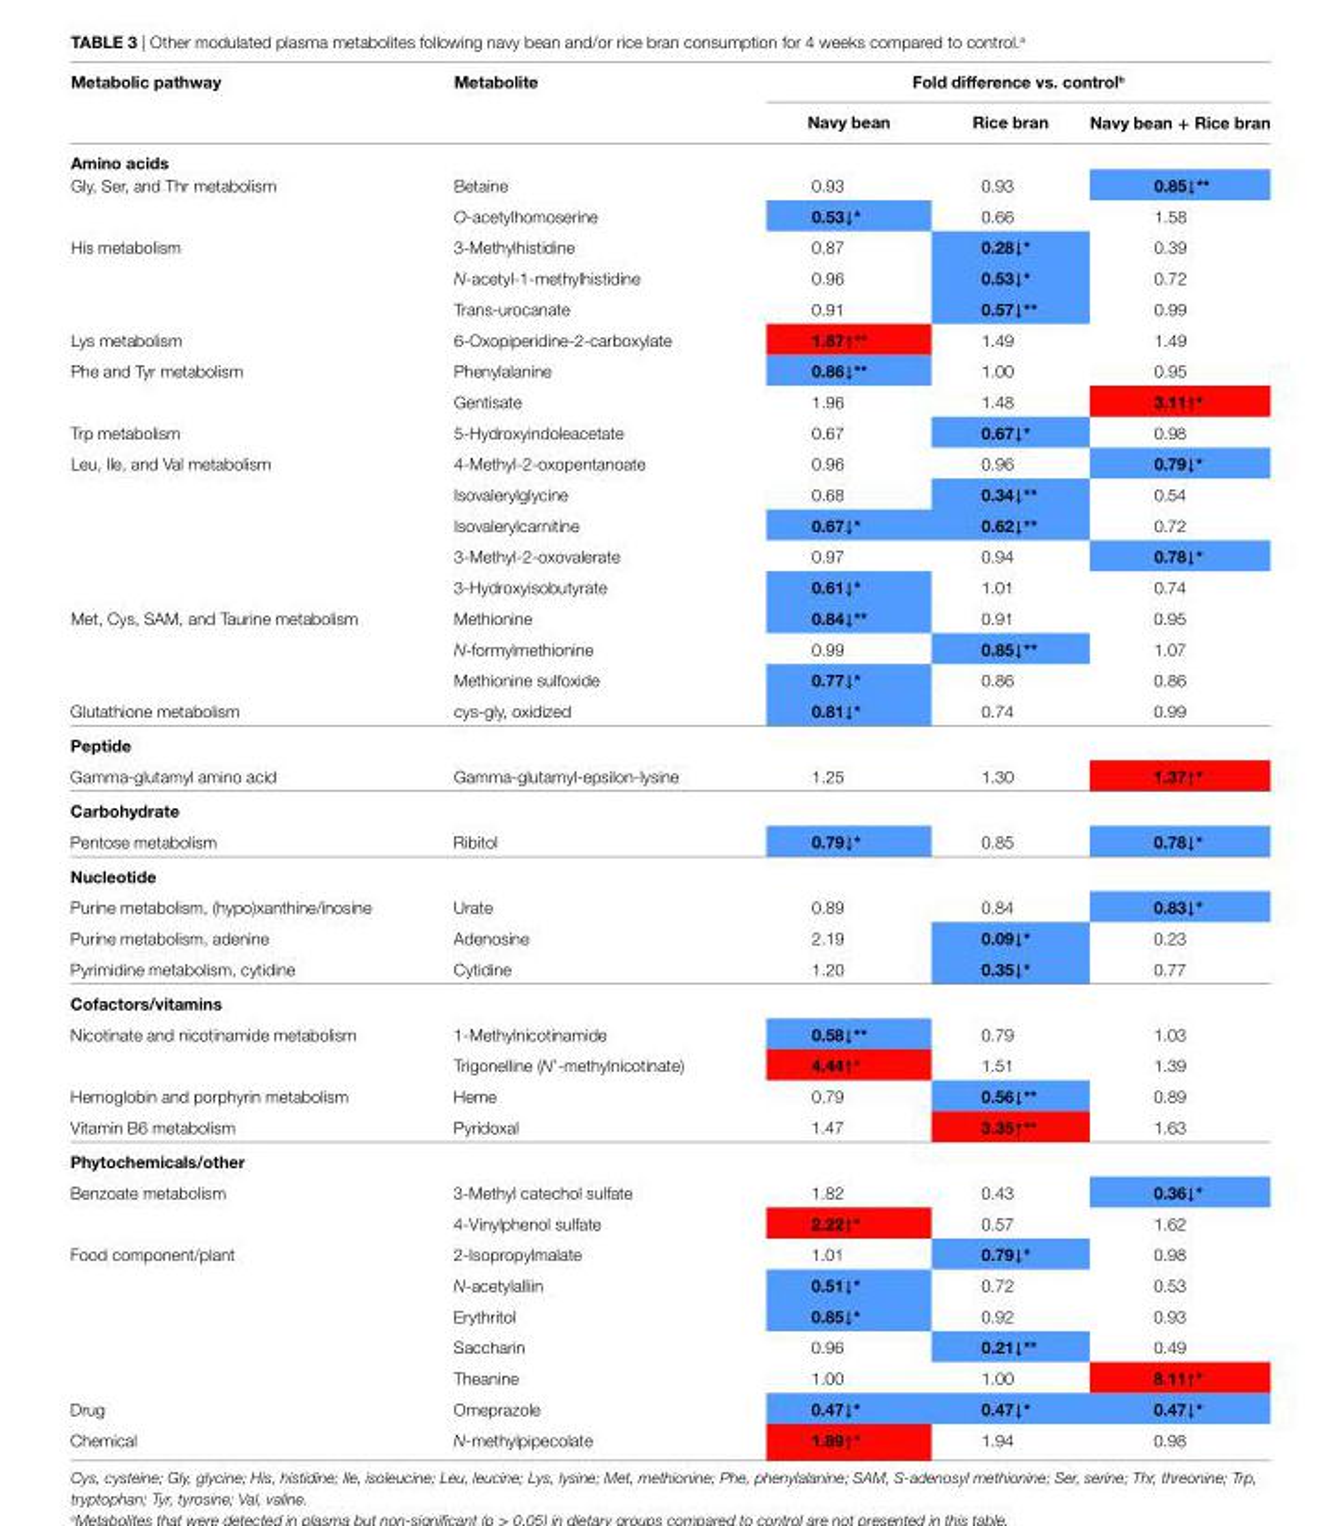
<table><thead><tr><td rowspan="2">Metabolic pathway</td><td rowspan="2">Metabolite</td><td colspan="3">Fold difference vs. control<sup>b</sup></td></tr><tr><td>navy bean</td><td>rice bran</td><td>navy bean + rice bran</td></tr></thead><tbody><tr><td colspan="5">amino acids</td></tr><tr><td rowspan="2">Gly, Ser, and Thr metabolism</td><td>Betaine</td><td>0.93</td><td>0.93</td><td>0.85↓**</td></tr><tr><td>O-acetylhomoserine</td><td>0.53↓*</td><td>0.66</td><td>1.58</td></tr><tr><td rowspan="3">His metabolism</td><td>3-Methylhistidine</td><td>0.87</td><td>0.28↓*</td><td>0.39</td></tr><tr><td>N-acetyl-1-methylhistidine</td><td>0.96</td><td>0.53↓*</td><td>0.72</td></tr><tr><td>Trans-urocanate</td><td>0.91</td><td>0.57↓**</td><td>0.99</td></tr><tr><td>Lys metabolism</td><td>6-Oxopiperidine-2-carboxylate</td><td>1.87↑**</td><td>1.49</td><td>1.49</td></tr><tr><td rowspan="2">Phe and Tyr metabolism</td><td>Phenylalanine</td><td>0.86↓**</td><td>1.00</td><td>0.95</td></tr><tr><td>Gentisate</td><td>1.96</td><td>1.48</td><td>3.11↑*</td></tr><tr><td>Trp metabolism</td><td>5-Hydroxyindoleacetate</td><td>0.67</td><td>0.67↓*</td><td>0.98</td></tr><tr><td rowspan="5">Leu, Ile, and Val metabolism</td><td>4-Methyl-2-oxopentanoate</td><td>0.96</td><td>0.96</td><td>0.79↓*</td></tr><tr><td>Isovalerylglycine</td><td>0.68</td><td>0.34↓**</td><td>0.54</td></tr><tr><td>Isovalerylcarnitine</td><td>0.67↓*</td><td>0.62↓**</td><td>0.72</td></tr><tr><td>3-Methyl-2-oxovalerate</td><td>0.97</td><td>0.94</td><td>0.78↓*</td></tr><tr><td>3-Hydroxyisobutyrate</td><td>0.61↓*</td><td>1.01</td><td>0.74</td></tr><tr><td rowspan="3">Met, Cys, SAM, and Taurine metabolism</td><td>Methionine</td><td>0.84↓**</td><td>0.91</td><td>0.95</td></tr><tr><td>N-formylmethionine</td><td>0.99</td><td>0.85↓**</td><td>1.07</td></tr><tr><td>Methionine sulfoxide</td><td>0.77↓*</td><td>0.86</td><td>0.86</td></tr><tr><td>Glutathione metabolism</td><td>cys-gly, oxidized</td><td>0.81↓*</td><td>0.74</td><td>0.99</td></tr><tr><td colspan="5">Peptide</td></tr><tr><td>Gamma-glutamyl amino acid</td><td>Gamma-glutamyl-epsilon-lysine</td><td>1.25</td><td>1.30</td><td>1.37↑*</td></tr><tr><td colspan="5">carbohydrate</td></tr><tr><td>Pentose metabolism</td><td>Ribitol</td><td>0.79↓*</td><td>0.85</td><td>0.78↓*</td></tr><tr><td colspan="5">nucleotide</td></tr><tr><td>Purine metabolism, (hypo)xanthine/inosine</td><td>Urate</td><td>0.89</td><td>0.84</td><td>0.83↓*</td></tr><tr><td>Purine metabolism, adenine</td><td>Adenosine</td><td>2.19</td><td>0.09↓*</td><td>0.23</td></tr><tr><td>Pyrimidine metabolism, cytidine</td><td>Cytidine</td><td>1.20</td><td>0.35↓*</td><td>0.77</td></tr><tr><td colspan="5">cofactors/vitamins</td></tr><tr><td rowspan="2">Nicotinate and nicotinamide metabolism</td><td>1-Methylnicotinamide</td><td>0.58↓**</td><td>0.79</td><td>1.03</td></tr><tr><td>Trigonelline (N’-methylnicotinate)</td><td>4.44↑*</td><td>1.51</td><td>1.39</td></tr><tr><td>Hemoglobin and porphyrin metabolism</td><td>Heme</td><td>0.79</td><td>0.56↓**</td><td>0.89</td></tr><tr><td>Vitamin B6 metabolism</td><td>Pyridoxal</td><td>1.47</td><td>3.35↑**</td><td>1.63</td></tr><tr><td colspan="5">Phytochemicals/other</td></tr><tr><td rowspan="2">Benzoate metabolism</td><td>3-Methyl catechol sulfate</td><td>1.82</td><td>0.43</td><td>0.36↓*</td></tr><tr><td>4-Vinylphenol sulfate</td><td>2.22↑*</td><td>0.57</td><td>1.62</td></tr><tr><td rowspan="5">Food component/plant</td><td>2-Isopropylmalate</td><td>1.01</td><td>0.79↓*</td><td>0.98</td></tr><tr><td>N-acetylalliin</td><td>0.51↓*</td><td>0.72</td><td>0.53</td></tr><tr><td>Erythritol</td><td>0.85↓*</td><td>0.92</td><td>0.93</td></tr><tr><td>Saccharin</td><td>0.96</td><td>0.21↓**</td><td>0.49</td></tr><tr><td>Theanine</td><td>1.00</td><td>1.00</td><td>8.11↑*</td></tr><tr><td>Drug</td><td>Omeprazole</td><td>0.47↓*</td><td>0.47↓*</td><td>0.47↓*</td></tr><tr><td>Chemical</td><td>N-methylpipecolate</td><td>1.89↑*</td><td>1.94</td><td>0.98</td></tr></tbody></table>